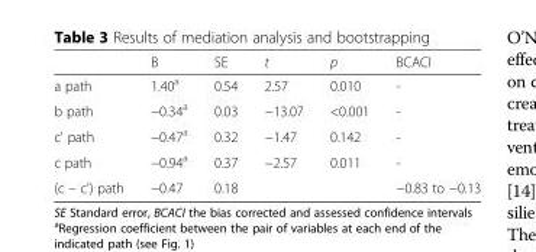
<table><thead><tr><td></td><td>B</td><td>SE</td><td>t</td><td>p</td><td>BCACI</td></tr></thead><tbody><tr><td>a path</td><td>1.40<sup>a</sup></td><td>0.54</td><td>2.57</td><td>0.010</td><td>-</td></tr><tr><td>b path</td><td>−0.34<sup>a</sup></td><td>0.03</td><td>−13.07</td><td>&lt;0.001</td><td>-</td></tr><tr><td>c&#x27; path</td><td>−0.47<sup>a</sup></td><td>0.32</td><td>−1.47</td><td>0.142</td><td>-</td></tr><tr><td>c path</td><td>−0.94<sup>a</sup></td><td>0.37</td><td>−2.57</td><td>0.011</td><td>-</td></tr><tr><td>(c – c&#x27;) path</td><td>−0.47</td><td>0.18</td><td></td><td></td><td>−0.83 to −0.13</td></tr></tbody></table>